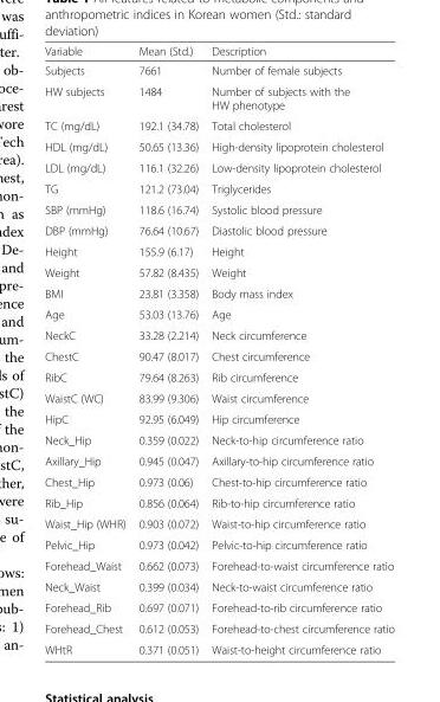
<table><thead><tr><td>Variable</td><td>Mean (Std.)</td><td>Description</td></tr></thead><tbody><tr><td>Subjects</td><td>7661</td><td>Number of female subjects</td></tr><tr><td>HW subjects</td><td>1484</td><td>Number of subjects with the HW phenotype</td></tr><tr><td>TC (mg/dL)</td><td>192.1 (34.78)</td><td>Total cholesterol</td></tr><tr><td>HDL (mg/dL)</td><td>50.65 (13.36)</td><td>High-density lipoprotein cholesterol</td></tr><tr><td>LDL (mg/dL)</td><td>116.1 (32.26)</td><td>Low-density lipoprotein cholesterol</td></tr><tr><td>TG</td><td>121.2 (73.04)</td><td>Triglycerides</td></tr><tr><td>SBP (mmHg)</td><td>118.6 (16.74)</td><td>Systolic blood pressure</td></tr><tr><td>DBP (mmHg)</td><td>76.64 (10.67)</td><td>Diastolic blood pressure</td></tr><tr><td>Height</td><td>155.9 (6.17)</td><td>Height</td></tr><tr><td>Weight</td><td>57.82 (8.435)</td><td>Weight</td></tr><tr><td>BMI</td><td>23.81 (3.358)</td><td>Body mass index</td></tr><tr><td>Age</td><td>53.03 (13.76)</td><td>Age</td></tr><tr><td>NeckC</td><td>33.28 (2.214)</td><td>Neck circumference</td></tr><tr><td>ChestC</td><td>90.47 (8.017)</td><td>Chest circumference</td></tr><tr><td>RibC</td><td>79.64 (8.263)</td><td>Rib circumference</td></tr><tr><td>WaistC (WC)</td><td>83.99 (9.306)</td><td>Waist circumference</td></tr><tr><td>HipC</td><td>92.95 (6.049)</td><td>Hip circumference</td></tr><tr><td>Neck_Hip</td><td>0.359 (0.022)</td><td>Neck-to-hip circumference ratio</td></tr><tr><td>Axillary_Hip</td><td>0.945 (0.047)</td><td>Axillary-to-hip circumference ratio</td></tr><tr><td>Chest_Hip</td><td>0.973 (0.06)</td><td>Chest-to-hip circumference ratio</td></tr><tr><td>Rib_Hip</td><td>0.856 (0.064)</td><td>Rib-to-hip circumference ratio</td></tr><tr><td>Waist_Hip (WHR)</td><td>0.903 (0.072)</td><td>Waist-to-hip circumference ratio</td></tr><tr><td>Pelvic_Hip</td><td>0.973 (0.042)</td><td>Pelvic-to-hip circumference ratio</td></tr><tr><td>Forehead_Waist</td><td>0.662 (0.073)</td><td>Forehead-to-waist circumference ratio</td></tr><tr><td>Neck_Waist</td><td>0.399 (0.034)</td><td>Neck-to-waist circumference ratio</td></tr><tr><td>Forehead_Rib</td><td>0.697 (0.071)</td><td>Forehead-to-rib circumference ratio</td></tr><tr><td>Forehead_Chest</td><td>0.612 (0.053)</td><td>Forehead-to-chest circumference ratio</td></tr><tr><td>WHtR</td><td>0.371 (0.051)</td><td>Waist-to-height circumference ratio</td></tr></tbody></table>